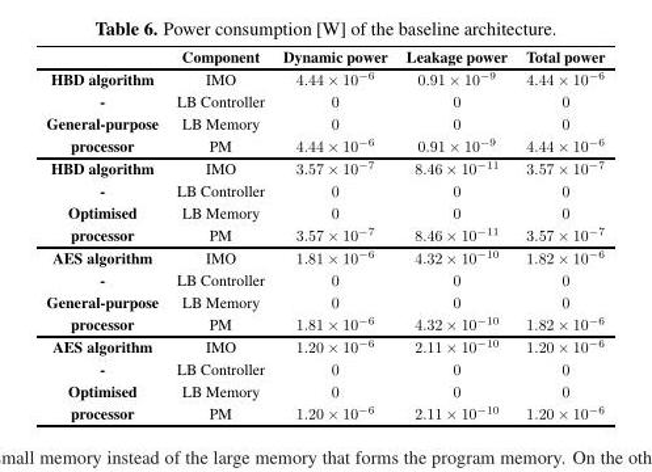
<table><thead><tr><td></td><td>Component</td><td>Dynamic power</td><td>Leakage power</td><td>Total power</td></tr></thead><tbody><tr><td>HBD algorithm</td><td>IMO</td><td>4.44 × 10<sup>−6</sup></td><td>0.91 × 10<sup>−9</sup></td><td>4.44 × 10<sup>−6</sup></td></tr><tr><td>-</td><td>LB Controller</td><td>0</td><td>0</td><td>0</td></tr><tr><td>General-purpose</td><td>LB Memory</td><td>0</td><td>0</td><td>0</td></tr><tr><td>processor</td><td>PM</td><td>4.44 × 10<sup>−6</sup></td><td>0.91 × 10<sup>−9</sup></td><td>4.44 × 10<sup>−6</sup></td></tr><tr><td>HBD algorithm</td><td>IMO</td><td>3.57 × 10<sup>−7</sup></td><td>8.46 × 10<sup>−11</sup></td><td>3.57 × 10<sup>−7</sup></td></tr><tr><td>-</td><td>LB Controller</td><td>0</td><td>0</td><td>0</td></tr><tr><td>Optimised</td><td>LB Memory</td><td>0</td><td>0</td><td>0</td></tr><tr><td>processor</td><td>PM</td><td>3.57 × 10<sup>−7</sup></td><td>8.46 × 10<sup>−11</sup></td><td>3.57 × 10<sup>−7</sup></td></tr><tr><td>AES algorithm</td><td>IMO</td><td>1.81 × 10<sup>−6</sup></td><td>4.32 × 10<sup>−10</sup></td><td>1.82 × 10<sup>−6</sup></td></tr><tr><td>-</td><td>LB Controller</td><td>0</td><td>0</td><td>0</td></tr><tr><td>General-purpose</td><td>LB Memory</td><td>0</td><td>0</td><td>0</td></tr><tr><td>processor</td><td>PM</td><td>1.81 × 10<sup>−6</sup></td><td>4.32 × 10<sup>−10</sup></td><td>1.82 × 10<sup>−6</sup></td></tr><tr><td>AES algorithm</td><td>IMO</td><td>1.20 × 10<sup>−6</sup></td><td>2.11 × 10<sup>−10</sup></td><td>1.20 × 10<sup>−6</sup></td></tr><tr><td>-</td><td>LB Controller</td><td>0</td><td>0</td><td>0</td></tr><tr><td>Optimised</td><td>LB Memory</td><td>0</td><td>0</td><td>0</td></tr><tr><td>processor</td><td>PM</td><td>1.20 × 10<sup>−6</sup></td><td>2.11 × 10<sup>−10</sup></td><td>1.20 × 10<sup>−6</sup></td></tr></tbody></table>